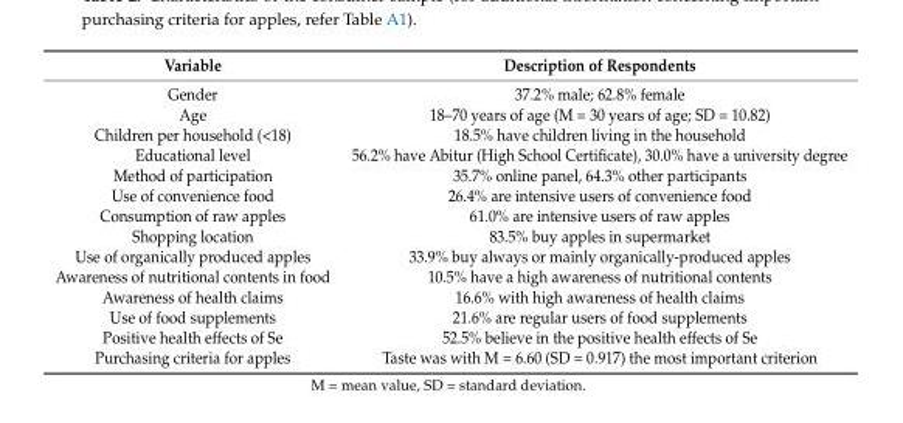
<table><thead><tr><td>Variable</td><td>Description of Respondents</td></tr></thead><tbody><tr><td>Gender</td><td>37.2% male; 62.8% female</td></tr><tr><td>Age</td><td>18–70 years of age (M = 30 years of age; SD = 10.82)</td></tr><tr><td>Children per household (&lt;18)</td><td>18.5% have children living in the household</td></tr><tr><td>Educational level</td><td>56.2% have Abitur (High School Certificate), 30.0% have a university degree</td></tr><tr><td>Method of participation</td><td>35.7% online panel, 64.3% other participants</td></tr><tr><td>Use of convenience food</td><td>26.4% are intensive users of convenience food</td></tr><tr><td>Consumption of raw apples</td><td>61.0% are intensive users of raw apples</td></tr><tr><td>Shopping location</td><td>83.5% buy apples in supermarket</td></tr><tr><td>Use of organically produced apples</td><td>33.9% buy always or mainly organically-produced apples</td></tr><tr><td>Awareness of nutritional contents in food</td><td>10.5% have a high awareness of nutritional contents</td></tr><tr><td>Awareness of health claims</td><td>16.6% with high awareness of health claims</td></tr><tr><td>Use of food supplements</td><td>21.6% are regular users of food supplements</td></tr><tr><td>Positive health effects of Se</td><td>52.5% believe in the positive health effects of Se</td></tr><tr><td>Purchasing criteria for apples</td><td>Taste was with M = 6.60 (SD = 0.917) the most important criterion</td></tr></tbody></table>